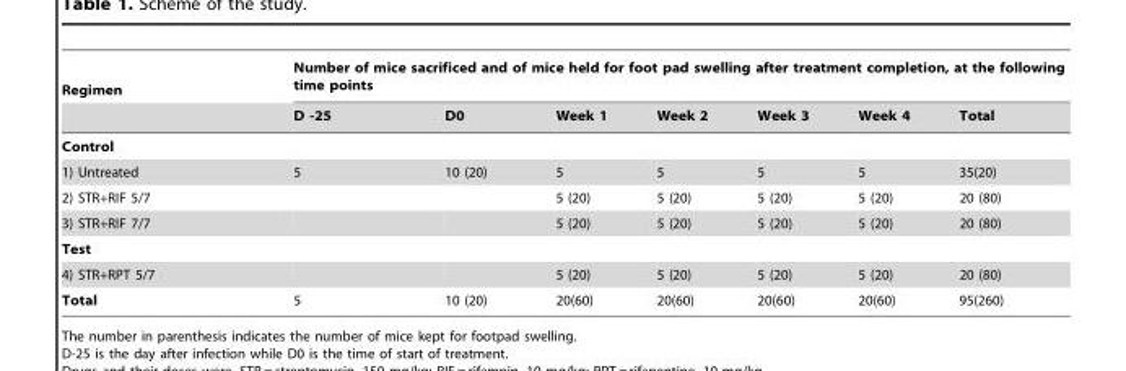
<table><thead><tr><td rowspan="2">Regimen</td><td colspan="7">Number of mice sacrificed and of mice held for foot pad swelling after treatment completion, at the following time points</td></tr><tr><td>D -25</td><td>D0</td><td>Week 1</td><td>Week 2</td><td>Week 3</td><td>Week 4</td><td>Total</td></tr></thead><tbody><tr><td colspan="8">Control</td></tr><tr><td>1) Untreated</td><td>5</td><td>10 (20)</td><td>5</td><td>5</td><td>5</td><td>5</td><td>35(20)</td></tr><tr><td>2) STR+RIF 5/7</td><td></td><td></td><td>5 (20)</td><td>5 (20)</td><td>5 (20)</td><td>5 (20)</td><td>20 (80)</td></tr><tr><td>3) STR+RIF 7/7</td><td></td><td></td><td>5 (20)</td><td>5 (20)</td><td>5 (20)</td><td>5 (20)</td><td>20 (80)</td></tr><tr><td colspan="8">Test</td></tr><tr><td>4) STR+RPT 5/7</td><td></td><td></td><td>5 (20)</td><td>5 (20)</td><td>5 (20)</td><td>5 (20)</td><td>20 (80)</td></tr><tr><td>Total</td><td>5</td><td>10 (20)</td><td>20(60)</td><td>20(60)</td><td>20(60)</td><td>20(60)</td><td>95(260)</td></tr></tbody></table>